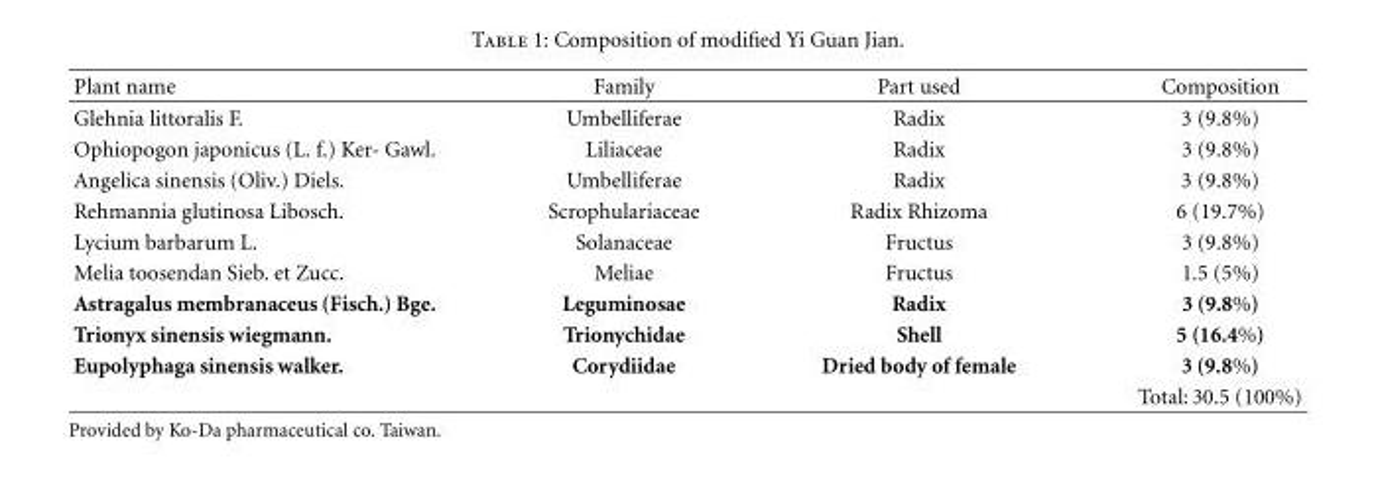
<table><thead><tr><td>Plant name</td><td>Family</td><td>Part used</td><td>Composition</td></tr></thead><tbody><tr><td>Glehnia littoralis F.</td><td>Umbelliferae</td><td>Radix</td><td>3 (9.8%)</td></tr><tr><td>Ophiopogon japonicus (L. f.) Ker- Gawl.</td><td>Liliaceae</td><td>Radix</td><td>3 (9.8%)</td></tr><tr><td>Angelica sinensis (Oliv.) Diels.</td><td>Umbelliferae</td><td>Radix</td><td>3 (9.8%)</td></tr><tr><td>Rehmannia glutinosa Libosch.</td><td>Scrophulariaceae</td><td>Radix Rhizoma</td><td>6 (19.7%)</td></tr><tr><td>Lycium barbarum L.</td><td>Solanaceae</td><td>Fructus</td><td>3 (9.8%)</td></tr><tr><td>Melia toosendan Sieb. et Zucc.</td><td>Meliae</td><td>Fructus</td><td>1.5 (5%)</td></tr><tr><td>Astragalus membranaceus (Fisch.) Bge.</td><td>Leguminosae</td><td>Radix</td><td>3 (9.8%)</td></tr><tr><td>Trionyx sinensis wiegmann.</td><td>Trionychidae</td><td>Shell</td><td>5 (16.4%)</td></tr><tr><td rowspan="2">Eupolyphaga sinensis walker.</td><td>Corydiidae</td><td>Dried body of female</td><td>3 (9.8%)</td></tr><tr><td></td><td></td><td>Total: 30.5 (100%)</td></tr></tbody></table>